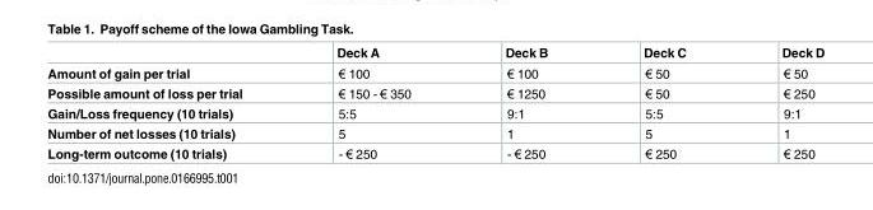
<table><thead><tr><td></td><td>Deck A</td><td>Deck B</td><td>Deck C</td><td>Deck D</td></tr></thead><tbody><tr><td>Amount of gain per trial</td><td>€ 100</td><td>€ 100</td><td>€ 50</td><td>€ 50</td></tr><tr><td>Possible amount of loss per trial</td><td>€ 150 - € 350</td><td>€ 1250</td><td>€ 50</td><td>€ 250</td></tr><tr><td>Gain/Loss frequency (10 trials)</td><td>5:5</td><td>9:1</td><td>5:5</td><td>9:1</td></tr><tr><td>Number of net losses (10 trials)</td><td>5</td><td>1</td><td>5</td><td>1</td></tr><tr><td>Long-term outcome (10 trials)</td><td>- € 250</td><td>- € 250</td><td>€ 250</td><td>€ 250</td></tr></tbody></table>